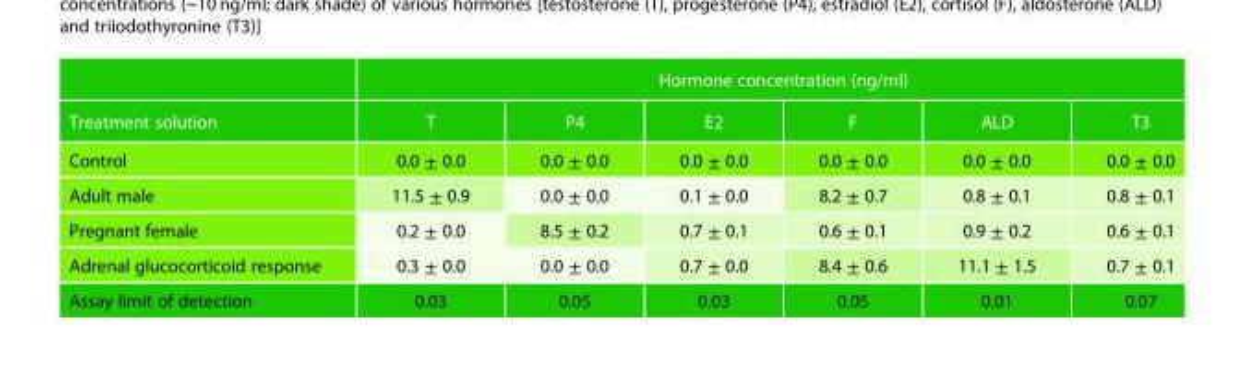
<table><thead><tr><td rowspan="2">Treatment solution</td><td colspan="6">Hormone concentration (ng/ml)</td></tr><tr><td>T</td><td>P4</td><td>E2</td><td>F</td><td>ALD</td><td>T3</td></tr></thead><tbody><tr><td>Control</td><td>0.0 ± 0.0</td><td>0.0 ± 0.0</td><td>0.0 ± 0.0</td><td>0.0 ± 0.0</td><td>0.0 ± 0.0</td><td>0.0 ± 0.0</td></tr><tr><td>Adult male</td><td>11.5 ± 0.9</td><td>0.0 ± 0.0</td><td>0.1 ± 0.0</td><td>8.2 ± 0.7</td><td>0.8 ± 0.1</td><td>0.8 ± 0.1</td></tr><tr><td>Pregnant female</td><td>0.2 ± 0.0</td><td>8.5 ± 0.2</td><td>0.7 ± 0.1</td><td>0.6 ± 0.1</td><td>0.9 ± 0.2</td><td>0.6 ± 0.1</td></tr><tr><td>Adrenal glucocorticoid response</td><td>0.3 ± 0.0</td><td>0.0 ± 0.0</td><td>0.7 ± 0.0</td><td>8.4 ± 0.6</td><td>11.1 ± 1.5</td><td>0.7 ± 0.1</td></tr><tr><td>Assay limit of detection</td><td>0.03</td><td>0.05</td><td>0.03</td><td>0.05</td><td>0.01</td><td>0.07</td></tr></tbody></table>